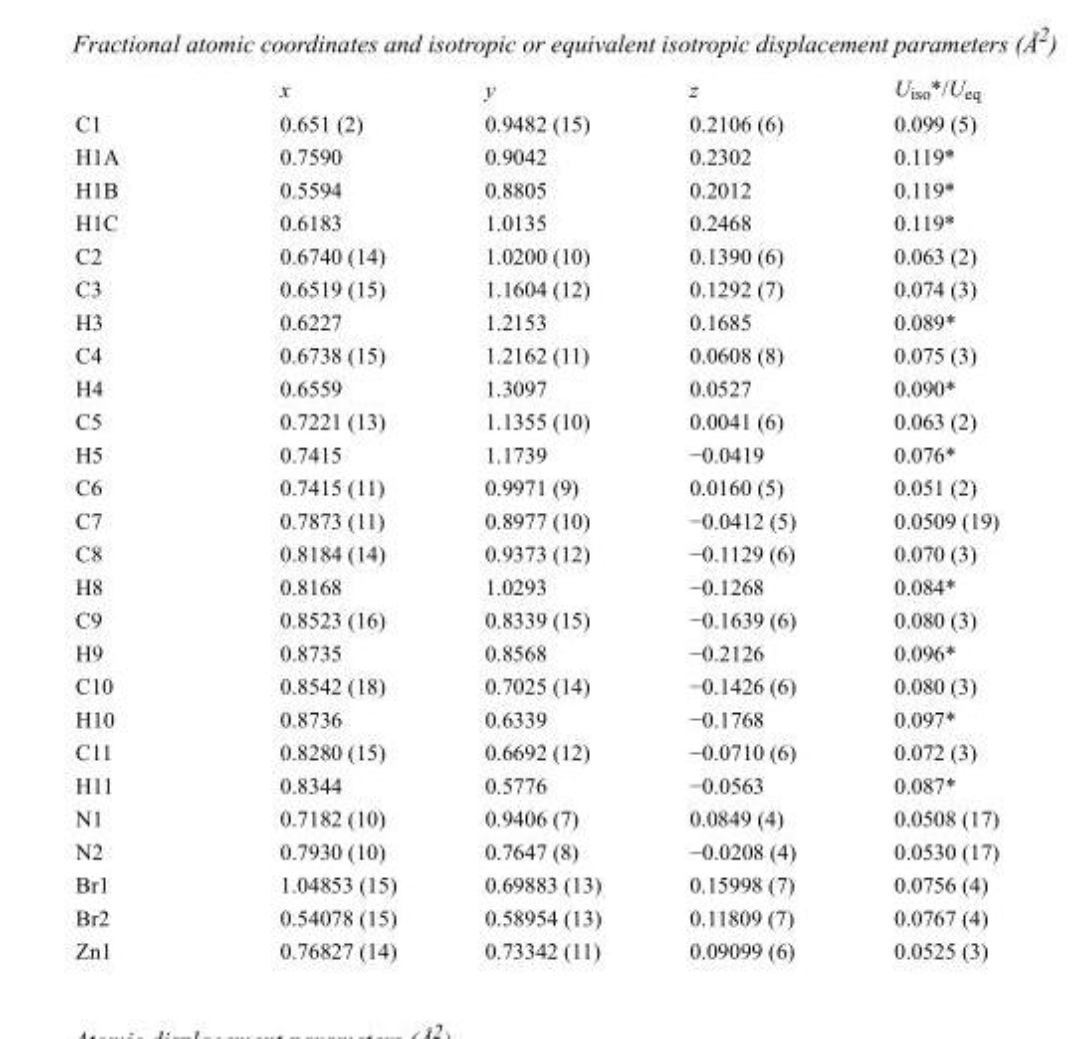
<table><thead><tr><td></td><td>x</td><td>y</td><td>z</td><td>U<sub>iso</sub>*/U<sub>eq</sub></td></tr></thead><tbody><tr><td>C1</td><td>0.651 (2)</td><td>0.9482 (15)</td><td>0.2106 (6)</td><td>0.099 (5)</td></tr><tr><td>H1A</td><td>0.7590</td><td>0.9042</td><td>0.2302</td><td>0.119*</td></tr><tr><td>H1B</td><td>0.5594</td><td>0.8805</td><td>0.2012</td><td>0.119*</td></tr><tr><td>H1C</td><td>0.6183</td><td>1.0135</td><td>0.2468</td><td>0.119*</td></tr><tr><td>C2</td><td>0.6740 (14)</td><td>1.0200 (10)</td><td>0.1390 (6)</td><td>0.063 (2)</td></tr><tr><td>C3</td><td>0.6519 (15)</td><td>1.1604 (12)</td><td>0.1292 (7)</td><td>0.074 (3)</td></tr><tr><td>H3</td><td>0.6227</td><td>1.2153</td><td>0.1685</td><td>0.089*</td></tr><tr><td>C4</td><td>0.6738 (15)</td><td>1.2162 (11)</td><td>0.0608 (8)</td><td>0.075 (3)</td></tr><tr><td>H4</td><td>0.6559</td><td>1.3097</td><td>0.0527</td><td>0.090*</td></tr><tr><td>C5</td><td>0.7221 (13)</td><td>1.1355 (10)</td><td>0.0041 (6)</td><td>0.063 (2)</td></tr><tr><td>H5</td><td>0.7415</td><td>1.1739</td><td>−0.0419</td><td>0.076*</td></tr><tr><td>C6</td><td>0.7415 (11)</td><td>0.9971 (9)</td><td>0.0160 (5)</td><td>0.051 (2)</td></tr><tr><td>C7</td><td>0.7873 (11)</td><td>0.8977 (10)</td><td>−0.0412 (5)</td><td>0.0509 (19)</td></tr><tr><td>C8</td><td>0.8184 (14)</td><td>0.9373 (12)</td><td>−0.1129 (6)</td><td>0.070 (3)</td></tr><tr><td>H8</td><td>0.8168</td><td>1.0293</td><td>−0.1268</td><td>0.084*</td></tr><tr><td>C9</td><td>0.8523 (16)</td><td>0.8339 (15)</td><td>−0.1639 (6)</td><td>0.080 (3)</td></tr><tr><td>H9</td><td>0.8735</td><td>0.8568</td><td>−0.2126</td><td>0.096*</td></tr><tr><td>C10</td><td>0.8542 (18)</td><td>0.7025 (14)</td><td>−0.1426 (6)</td><td>0.080 (3)</td></tr><tr><td>H10</td><td>0.8736</td><td>0.6339</td><td>−0.1768</td><td>0.097*</td></tr><tr><td>C11</td><td>0.8280 (15)</td><td>0.6692 (12)</td><td>−0.0710 (6)</td><td>0.072 (3)</td></tr><tr><td>H11</td><td>0.8344</td><td>0.5776</td><td>−0.0563</td><td>0.087*</td></tr><tr><td>N1</td><td>0.7182 (10)</td><td>0.9406 (7)</td><td>0.0849 (4)</td><td>0.0508 (17)</td></tr><tr><td>N2</td><td>0.7930 (10)</td><td>0.7647 (8)</td><td>−0.0208 (4)</td><td>0.0530 (17)</td></tr><tr><td>Br1</td><td>1.04853 (15)</td><td>0.69883 (13)</td><td>0.15998 (7)</td><td>0.0756 (4)</td></tr><tr><td>Br2</td><td>0.54078 (15)</td><td>0.58954 (13)</td><td>0.11809 (7)</td><td>0.0767 (4)</td></tr><tr><td>Zn1</td><td>0.76827 (14)</td><td>0.73342 (11)</td><td>0.09099 (6)</td><td>0.0525 (3)</td></tr></tbody></table>